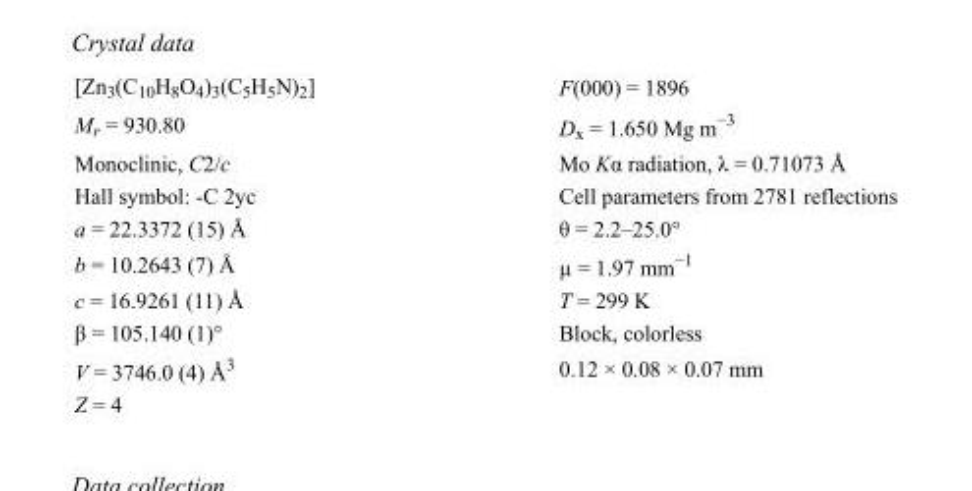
<table><tbody><tr><td>[Zn<sub>3</sub>(C<sub>10</sub>H<sub>8</sub>O<sub>4</sub>)<sub>3</sub>(C<sub>5</sub>H<sub>5</sub>N)<sub>2</sub>]</td><td>F(000) = 1896</td></tr><tr><td>M<sub>r</sub> = 930.80</td><td>D<sub>x</sub> = 1.650 Mg m<sup>−3</sup></td></tr><tr><td>Monoclinic, C2/c</td><td>Mo Kα radiation, λ = 0.71073 Å</td></tr><tr><td>Hall symbol: -C 2yc</td><td>Cell parameters from 2781 reflections</td></tr><tr><td>a = 22.3372 (15) Å</td><td>θ = 2.2–25.0°</td></tr><tr><td>b = 10.2643 (7) Å</td><td>µ = 1.97 mm<sup>−1</sup></td></tr><tr><td>c = 16.9261 (11) Å</td><td>T = 299 K</td></tr><tr><td>β = 105.140 (1)°</td><td>Block, colorless</td></tr><tr><td>V = 3746.0 (4) Å<sup>3</sup></td><td>0.12 × 0.08 × 0.07 mm</td></tr><tr><td>Z = 4</td><td></td></tr></tbody></table>